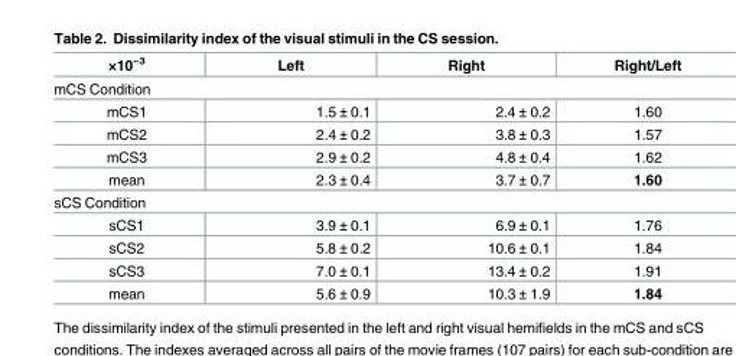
<table><thead><tr><td>×10<sup>−3</sup></td><td>Left</td><td>Right</td><td>Right/Left</td></tr></thead><tbody><tr><td colspan="4">mCS Condition</td></tr><tr><td>mCS1</td><td>1.5 ± 0.1</td><td>2.4 ± 0.2</td><td>1.60</td></tr><tr><td>mCS2</td><td>2.4 ± 0.2</td><td>3.8 ± 0.3</td><td>1.57</td></tr><tr><td>mCS3</td><td>2.9 ± 0.2</td><td>4.8 ± 0.4</td><td>1.62</td></tr><tr><td>mean</td><td>2.3 ± 0.4</td><td>3.7 ± 0.7</td><td>1.60</td></tr><tr><td colspan="4">sCS Condition</td></tr><tr><td>sCS1</td><td>3.9 ± 0.1</td><td>6.9 ± 0.1</td><td>1.76</td></tr><tr><td>sCS2</td><td>5.8 ± 0.2</td><td>10.6 ± 0.1</td><td>1.84</td></tr><tr><td>sCS3</td><td>7.0 ± 0.1</td><td>13.4 ± 0.2</td><td>1.91</td></tr><tr><td>mean</td><td>5.6 ± 0.9</td><td>10.3 ± 1.9</td><td>1.84</td></tr></tbody></table>